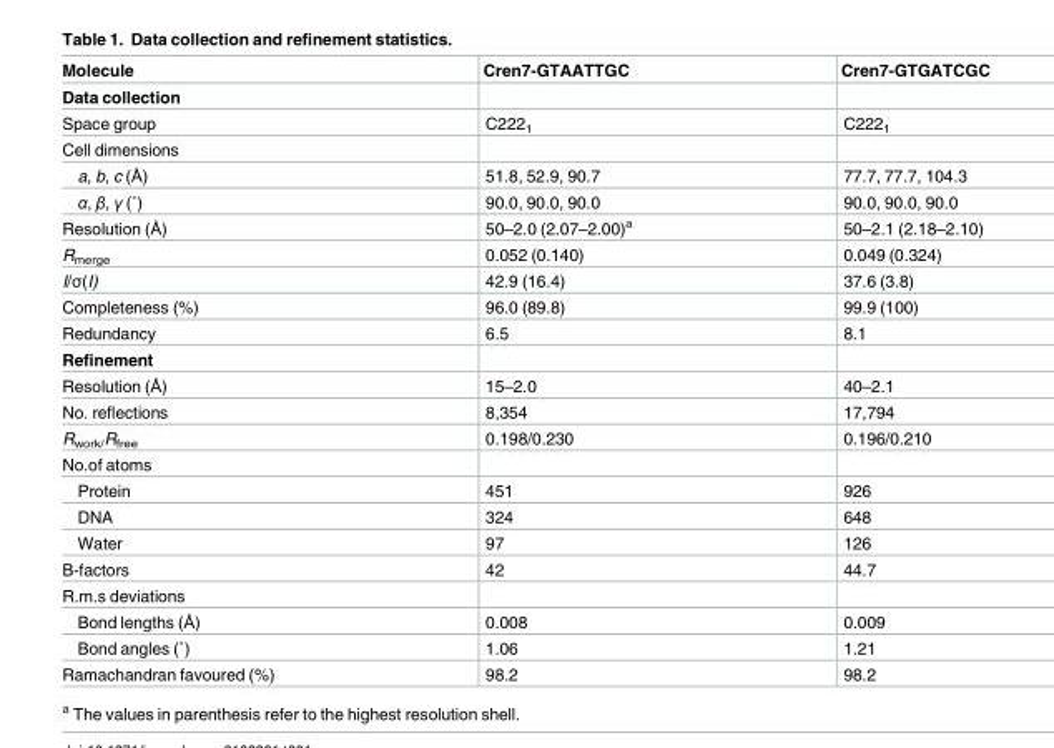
<table><thead><tr><td>Molecule</td><td>Cren7-GTAATTGC</td><td>Cren7-GTGATCGC</td></tr></thead><tbody><tr><td colspan="3">Data collection</td></tr><tr><td>Space group</td><td>C222<sub>1</sub></td><td>C222<sub>1</sub></td></tr><tr><td colspan="3">Cell dimensions</td></tr><tr><td>a, b, c (Å)</td><td>51.8, 52.9, 90.7</td><td>77.7, 77.7, 104.3</td></tr><tr><td>α, β, γ (˚)</td><td>90.0, 90.0, 90.0</td><td>90.0, 90.0, 90.0</td></tr><tr><td>Resolution (Å)</td><td>50–2.0 (2.07–2.00)<sup>a</sup></td><td>50–2.1 (2.18–2.10)</td></tr><tr><td>R<sub>merge</sub></td><td>0.052 (0.140)</td><td>0.049 (0.324)</td></tr><tr><td>I/σ(I)</td><td>42.9 (16.4)</td><td>37.6 (3.8)</td></tr><tr><td>Completeness (%)</td><td>96.0 (89.8)</td><td>99.9 (100)</td></tr><tr><td>Redundancy</td><td>6.5</td><td>8.1</td></tr><tr><td colspan="3">Refinement</td></tr><tr><td>Resolution (Å)</td><td>15–2.0</td><td>40–2.1</td></tr><tr><td>No. reflections</td><td>8,354</td><td>17,794</td></tr><tr><td>R<sub>work/</sub>R<sub>free</sub></td><td>0.198/0.230</td><td>0.196/0.210</td></tr><tr><td colspan="3">No.of atoms</td></tr><tr><td>Protein</td><td>451</td><td>926</td></tr><tr><td>DNA</td><td>324</td><td>648</td></tr><tr><td>Water</td><td>97</td><td>126</td></tr><tr><td>B-factors</td><td>42</td><td>44.7</td></tr><tr><td colspan="3">R.m.s deviations</td></tr><tr><td>Bond lengths (Å)</td><td>0.008</td><td>0.009</td></tr><tr><td>Bond angles (˚)</td><td>1.06</td><td>1.21</td></tr><tr><td>Ramachandran favoured (%)</td><td>98.2</td><td>98.2</td></tr></tbody></table>